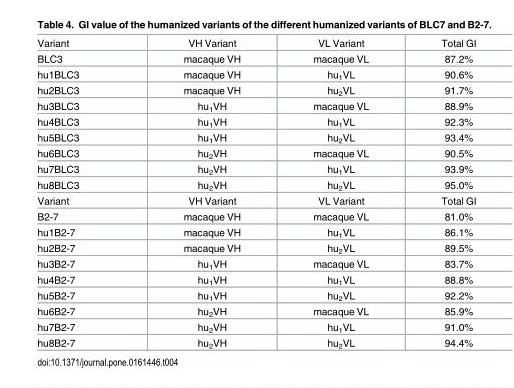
<table><tbody><tr><td>Variant</td><td>VH Variant</td><td>VL Variant</td><td>Total GI</td></tr><tr><td>BLC3</td><td>macaque VH</td><td>macaque VL</td><td>87.2%</td></tr><tr><td>hu1BLC3</td><td>macaque VH</td><td>hu<sub>1</sub>VL</td><td>90.6%</td></tr><tr><td>hu2BLC3</td><td>macaque VH</td><td>hu<sub>2</sub>VL</td><td>91.7%</td></tr><tr><td>hu3BLC3</td><td>hu<sub>1</sub>VH</td><td>macaque VL</td><td>88.9%</td></tr><tr><td>hu4BLC3</td><td>hu<sub>1</sub>VH</td><td>hu<sub>1</sub>VL</td><td>92.3%</td></tr><tr><td>hu5BLC3</td><td>hu<sub>1</sub>VH</td><td>hu<sub>2</sub>VL</td><td>93.4%</td></tr><tr><td>hu6BLC3</td><td>hu<sub>2</sub>VH</td><td>macaque VL</td><td>90.5%</td></tr><tr><td>hu7BLC3</td><td>hu<sub>2</sub>VH</td><td>hu<sub>1</sub>VL</td><td>93.9%</td></tr><tr><td>hu8BLC3</td><td>hu<sub>2</sub>VH</td><td>hu<sub>2</sub>VL</td><td>95.0%</td></tr><tr><td>Variant</td><td>VH Variant</td><td>VL Variant</td><td>Total GI</td></tr><tr><td>B2-7</td><td>macaque VH</td><td>macaque VL</td><td>81.0%</td></tr><tr><td>hu1B2-7</td><td>macaque VH</td><td>hu<sub>1</sub>VL</td><td>86.1%</td></tr><tr><td>hu2B2-7</td><td>macaque VH</td><td>hu<sub>2</sub>VL</td><td>89.5%</td></tr><tr><td>hu3B2-7</td><td>hu<sub>1</sub>VH</td><td>macaque VL</td><td>83.7%</td></tr><tr><td>hu4B2-7</td><td>hu<sub>1</sub>VH</td><td>hu<sub>1</sub>VL</td><td>88.8%</td></tr><tr><td>hu5B2-7</td><td>hu<sub>1</sub>VH</td><td>hu<sub>2</sub>VL</td><td>92.2%</td></tr><tr><td>hu6B2-7</td><td>hu<sub>2</sub>VH</td><td>macaque VL</td><td>85.9%</td></tr><tr><td>hu7B2-7</td><td>hu<sub>2</sub>VH</td><td>hu<sub>1</sub>VL</td><td>91.0%</td></tr><tr><td>hu8B2-7</td><td>hu<sub>2</sub>VH</td><td>hu<sub>2</sub>VL</td><td>94.4%</td></tr></tbody></table>